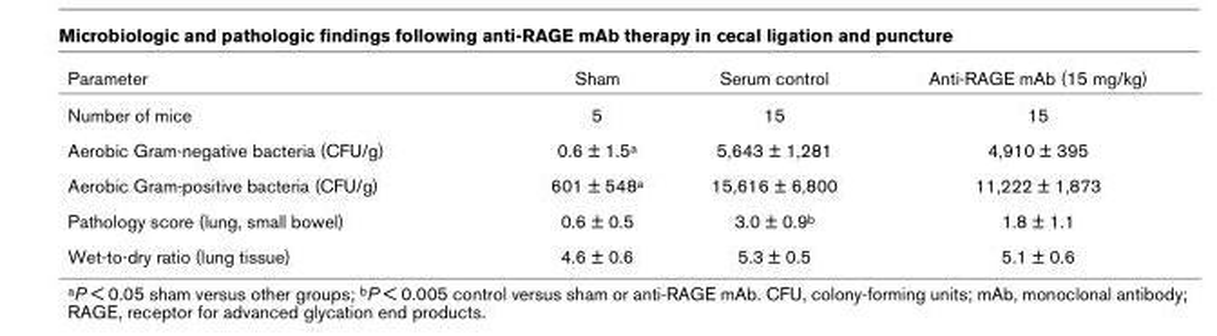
<table><thead><tr><td>Parameter</td><td>Sham</td><td>Serum control</td><td>Anti-RAGE mAb (15 mg/kg)</td></tr></thead><tbody><tr><td>Number of mice</td><td>5</td><td>15</td><td>15</td></tr><tr><td>Aerobic Gram-negative bacteria (CFU/g)</td><td>0.6 ± 1.5<sup>a</sup></td><td>5,643 ± 1,281</td><td>4,910 ± 395</td></tr><tr><td>Aerobic Gram-positive bacteria (CFU/g)</td><td>601 ± 548<sup>a</sup></td><td>15,616 ± 6,800</td><td>11,222 ± 1,873</td></tr><tr><td>Pathology score (lung, small bowel)</td><td>0.6 ± 0.5</td><td>3.0 ± 0.9<sup>b</sup></td><td>1.8 ± 1.1</td></tr><tr><td>Wet-to-dry ratio (lung tissue)</td><td>4.6 ± 0.6</td><td>5.3 ± 0.5</td><td>5.1 ± 0.6</td></tr></tbody></table>